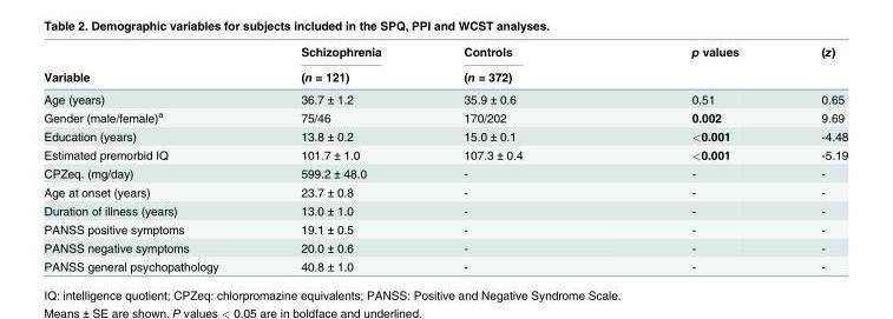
<table><thead><tr><td rowspan="2">Variable</td><td rowspan="2">Schizophrenia (n = 121)</td><td rowspan="2">Controls (n = 372)</td><td rowspan="2">p values</td><td rowspan="2">(z)</td></tr><tr></tr></thead><tbody><tr><td>Age (years)</td><td>36.7 ± 1.2</td><td>35.9 ± 0.6</td><td>0.51</td><td>0.65</td></tr><tr><td>Gender (male/female)<sup>a</sup></td><td>75/46</td><td>170/202</td><td>0.002</td><td>9.69</td></tr><tr><td>Education (years)</td><td>13.8 ± 0.2</td><td>15.0 ± 0.1</td><td>&lt;0.001</td><td>-4.48</td></tr><tr><td>Estimated premorbid IQ</td><td>101.7 ± 1.0</td><td>107.3 ± 0.4</td><td>&lt;0.001</td><td>-5.19</td></tr><tr><td>CPZeq. (mg/day)</td><td>599.2 ± 48.0</td><td>-</td><td>-</td><td>-</td></tr><tr><td>Age at onset (years)</td><td>23.7 ± 0.8</td><td>-</td><td>-</td><td>-</td></tr><tr><td>Duration of illness (years)</td><td>13.0 ± 1.0</td><td>-</td><td>-</td><td>-</td></tr><tr><td>PANSS positive symptoms</td><td>19.1 ± 0.5</td><td>-</td><td>-</td><td>-</td></tr><tr><td>PANSS negative symptoms</td><td>20.0 ± 0.6</td><td>-</td><td>-</td><td>-</td></tr><tr><td>PANSS general psychopathology</td><td>40.8 ± 1.0</td><td>-</td><td>-</td><td>-</td></tr></tbody></table>